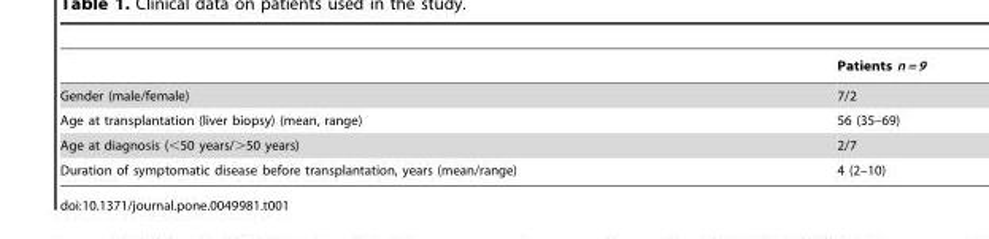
<table><thead><tr><td></td><td>Patients n = 9</td></tr></thead><tbody><tr><td>Gender (male/female)</td><td>7/2</td></tr><tr><td>Age at transplantation (liver biopsy) (mean, range)</td><td>56 (35–69)</td></tr><tr><td>Age at diagnosis (&lt;50 years/&gt;50 years)</td><td>2/7</td></tr><tr><td>Duration of symptomatic disease before transplantation, years (mean/range)</td><td>4 (2–10)</td></tr></tbody></table>